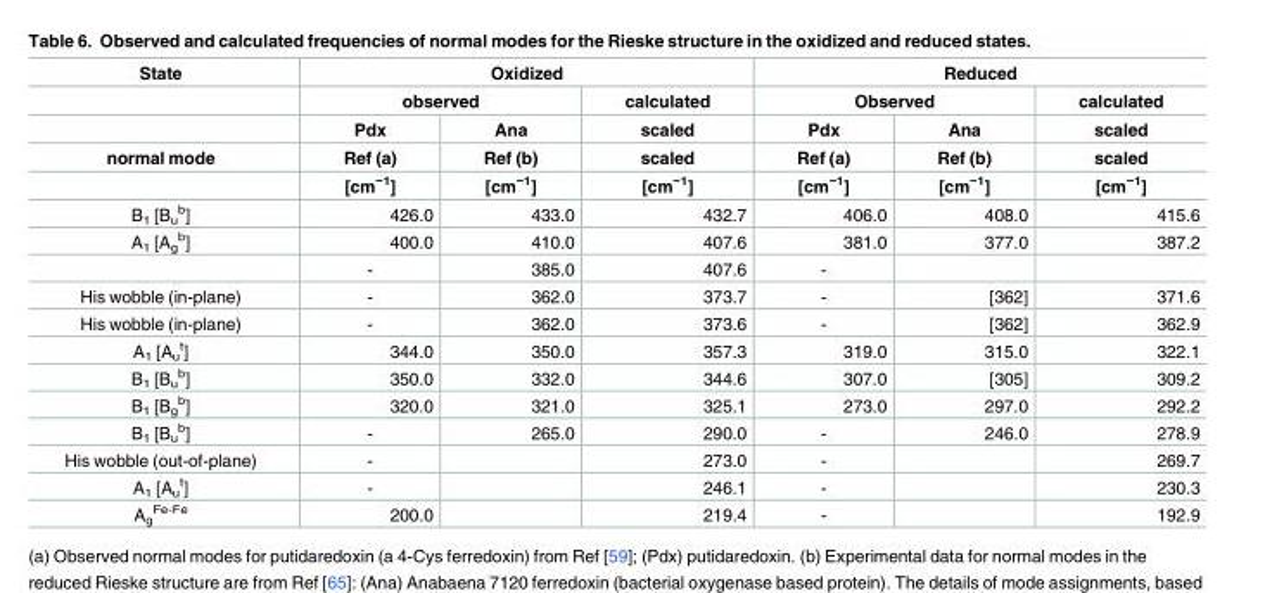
<table><thead><tr><td rowspan="5">State normal mode</td><td colspan="3">Oxidized</td><td colspan="3">Reduced</td></tr><tr><td colspan="2">observed</td><td rowspan="4">calculated scaled scaled [cm<sup>−1</sup>]</td><td colspan="2">Observed</td><td rowspan="4">calculated scaled scaled [cm<sup>−1</sup>]</td></tr><tr><td rowspan="3">Pdx Ref (a) [cm<sup>−1</sup>]</td><td rowspan="3">Ana Ref (b) [cm<sup>−1</sup>]</td><td rowspan="3">Pdx Ref (a) [cm<sup>−1</sup>]</td><td rowspan="3">Ana Ref (b) [cm<sup>−1</sup>]</td></tr><tr></tr><tr></tr></thead><tbody><tr><td>B<sub>1</sub> [B<sub>u</sub> <sup>b</sup>]</td><td>426.0</td><td>433.0</td><td>432.7</td><td>406.0</td><td>408.0</td><td>415.6</td></tr><tr><td rowspan="2">A<sub>1</sub> [A<sub>g</sub> <sup>b</sup>]</td><td>400.0</td><td>410.0</td><td>407.6</td><td>381.0</td><td>377.0</td><td>387.2</td></tr><tr><td>-</td><td>385.0</td><td>407.6</td><td>-</td><td></td><td></td></tr><tr><td>His wobble (in-plane)</td><td>-</td><td>362.0</td><td>373.7</td><td>-</td><td>[362]</td><td>371.6</td></tr><tr><td>His wobble (in-plane)</td><td>-</td><td>362.0</td><td>373.6</td><td>-</td><td>[362]</td><td>362.9</td></tr><tr><td>A<sub>1</sub> [A<sub>u</sub> <sup>t</sup>]</td><td>344.0</td><td>350.0</td><td>357.3</td><td>319.0</td><td>315.0</td><td>322.1</td></tr><tr><td>B<sub>1</sub> [B<sub>u</sub> <sup>b</sup>]</td><td>350.0</td><td>332.0</td><td>344.6</td><td>307.0</td><td>[305]</td><td>309.2</td></tr><tr><td>B<sub>1</sub> [B<sub>g</sub> <sup>b</sup>]</td><td>320.0</td><td>321.0</td><td>325.1</td><td>273.0</td><td>297.0</td><td>292.2</td></tr><tr><td>B<sub>1</sub> [B<sub>u</sub> <sup>b</sup>]</td><td>-</td><td>265.0</td><td>290.0</td><td>-</td><td>246.0</td><td>278.9</td></tr><tr><td>His wobble (out-of-plane)</td><td>-</td><td></td><td>273.0</td><td>-</td><td></td><td>269.7</td></tr><tr><td>A<sub>1</sub> [A<sub>u</sub> <sup>t</sup>]</td><td>-</td><td></td><td>246.1</td><td>-</td><td></td><td>230.3</td></tr><tr><td>A<sub>g</sub> <sup>Fe-Fe</sup></td><td>200.0</td><td></td><td>219.4</td><td>-</td><td></td><td>192.9</td></tr></tbody></table>